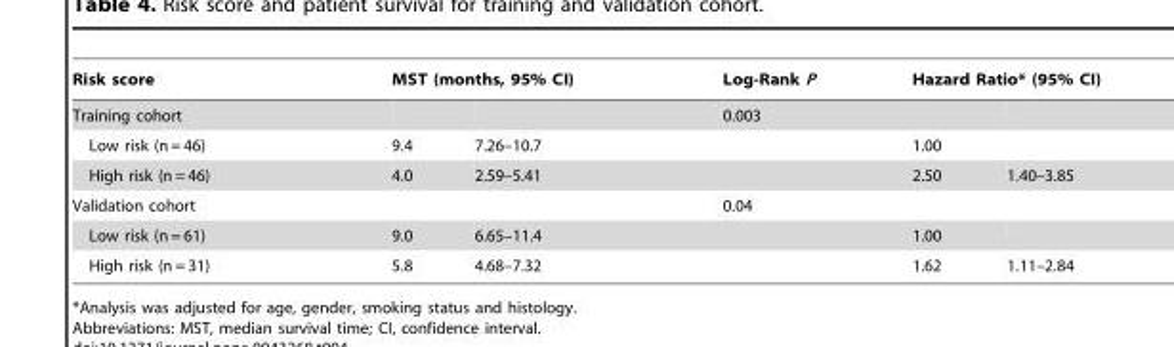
<table><thead><tr><td rowspan="2">Risk score Training cohort</td><td colspan="2">MST (months, 95% CI)</td><td rowspan="2">Log-Rank P 0.003</td><td colspan="2">Hazard Ratio* (95% CI)</td></tr><tr><td></td><td></td><td></td><td></td></tr></thead><tbody><tr><td>Low risk (n = 46)</td><td>9.4</td><td>7.26–10.7</td><td></td><td>1.00</td><td></td></tr><tr><td>High risk (n = 46)</td><td>4.0</td><td>2.59–5.41</td><td></td><td>2.50</td><td>1.40–3.85</td></tr><tr><td>Validation cohort</td><td></td><td></td><td>0.04</td><td></td><td></td></tr><tr><td>Low risk (n = 61)</td><td>9.0</td><td>6.65–11.4</td><td></td><td>1.00</td><td></td></tr><tr><td>High risk (n = 31)</td><td>5.8</td><td>4.68–7.32</td><td></td><td>1.62</td><td>1.11–2.84</td></tr></tbody></table>